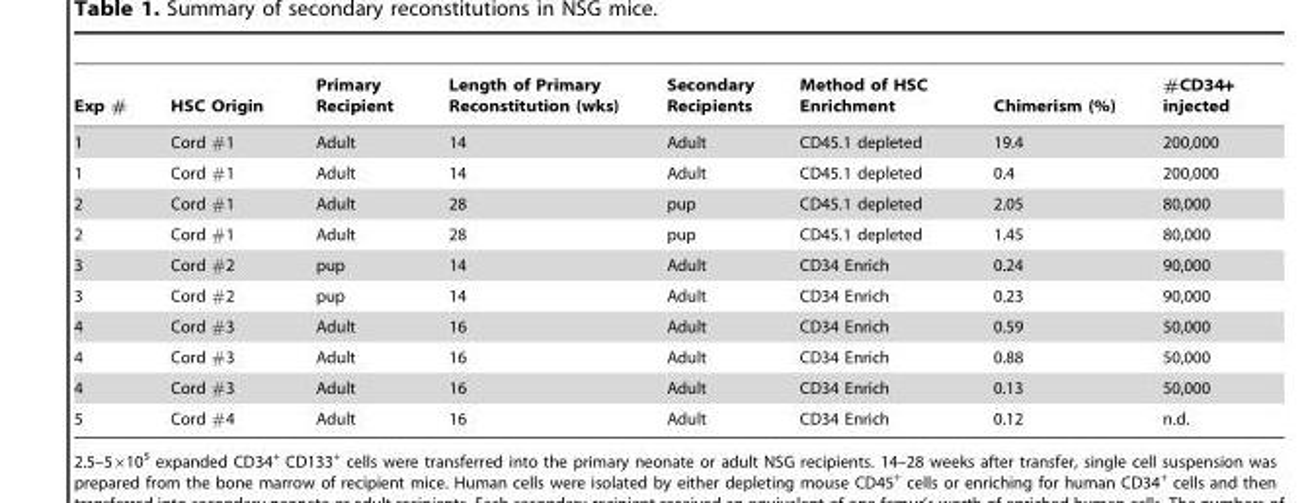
<table><thead><tr><td>Exp #</td><td>HSC Origin</td><td>Primary Recipient</td><td>Length of Primary Reconstitution (wks)</td><td>Secondary Recipients</td><td>Method of HSC Enrichment</td><td>Chimerism (%)</td><td>#CD34+ injected</td></tr></thead><tbody><tr><td>1</td><td>Cord #1</td><td>Adult</td><td>14</td><td>Adult</td><td>CD45.1 depleted</td><td>19.4</td><td>200,000</td></tr><tr><td>1</td><td>Cord #1</td><td>Adult</td><td>14</td><td>Adult</td><td>CD45.1 depleted</td><td>0.4</td><td>200,000</td></tr><tr><td>2</td><td>Cord #1</td><td>Adult</td><td>28</td><td>pup</td><td>CD45.1 depleted</td><td>2.05</td><td>80,000</td></tr><tr><td>2</td><td>Cord #1</td><td>Adult</td><td>28</td><td>pup</td><td>CD45.1 depleted</td><td>1.45</td><td>80,000</td></tr><tr><td>3</td><td>Cord #2</td><td>pup</td><td>14</td><td>Adult</td><td>CD34 Enrich</td><td>0.24</td><td>90,000</td></tr><tr><td>3</td><td>Cord #2</td><td>pup</td><td>14</td><td>Adult</td><td>CD34 Enrich</td><td>0.23</td><td>90,000</td></tr><tr><td>4</td><td>Cord #3</td><td>Adult</td><td>16</td><td>Adult</td><td>CD34 Enrich</td><td>0.59</td><td>50,000</td></tr><tr><td>4</td><td>Cord #3</td><td>Adult</td><td>16</td><td>Adult</td><td>CD34 Enrich</td><td>0.88</td><td>50,000</td></tr><tr><td>4</td><td>Cord #3</td><td>Adult</td><td>16</td><td>Adult</td><td>CD34 Enrich</td><td>0.13</td><td>50,000</td></tr><tr><td>5</td><td>Cord #4</td><td>Adult</td><td>16</td><td>Adult</td><td>CD34 Enrich</td><td>0.12</td><td>n.d.</td></tr></tbody></table>